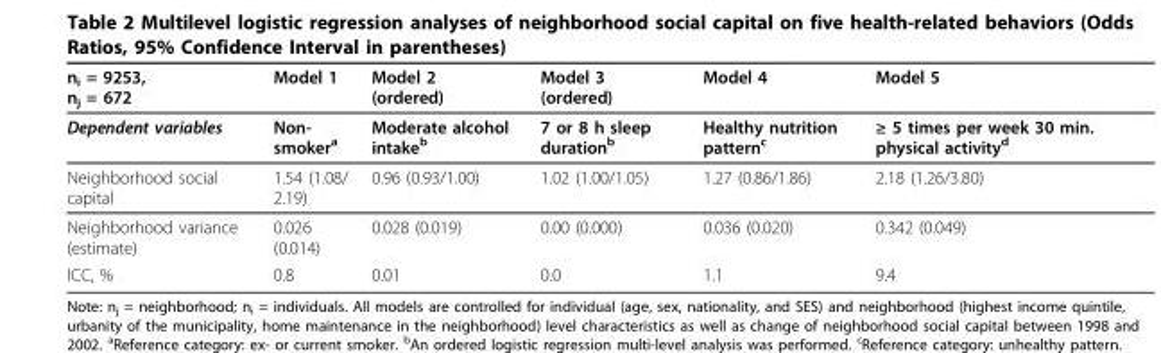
<table><thead><tr><td>n<sub>i</sub> = 9253, n<sub>j</sub> = 672</td><td>Model 1</td><td>Model 2 (ordered)</td><td>Model 3 (ordered)</td><td>Model 4</td><td>Model 5</td></tr></thead><tbody><tr><td>Dependent variables</td><td>Non- smoker<sup>a</sup></td><td>Moderate alcohol intake<sup>b</sup></td><td>7 or 8 h sleep duration<sup>b</sup></td><td>Healthy nutrition pattern<sup>c</sup></td><td>≥ 5 times per week 30 min. physical activity<sup>d</sup></td></tr><tr><td>Neighborhood social capital</td><td>1.54 (1.08/ 2.19)</td><td>0.96 (0.93/1.00)</td><td>1.02 (1.00/1.05)</td><td>1.27 (0.86/1.86)</td><td>2.18 (1.26/3.80)</td></tr><tr><td>Neighborhood variance (estimate)</td><td>0.026 (0.014)</td><td>0.028 (0.019)</td><td>0.00 (0.000)</td><td>0.036 (0.020)</td><td>0.342 (0.049)</td></tr><tr><td>ICC, %</td><td>0.8</td><td>0.01</td><td>0.0</td><td>1.1</td><td>9.4</td></tr></tbody></table>